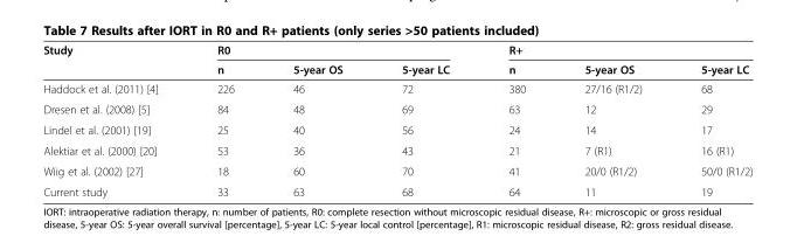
<table><thead><tr><td rowspan="2">Study</td><td colspan="3">R0</td><td colspan="3">R+</td></tr><tr><td>n</td><td>5-year OS</td><td>5-year LC</td><td>n</td><td>5-year OS</td><td>5-year LC</td></tr></thead><tbody><tr><td>Haddock et al. (2011) [4]</td><td>226</td><td>46</td><td>72</td><td>380</td><td>27/16 (R1/2)</td><td>68</td></tr><tr><td>Dresen et al. (2008) [5]</td><td>84</td><td>48</td><td>69</td><td>63</td><td>12</td><td>29</td></tr><tr><td>Lindel et al. (2001) [19]</td><td>25</td><td>40</td><td>56</td><td>24</td><td>14</td><td>17</td></tr><tr><td>Alektiar et al. (2000) [20]</td><td>53</td><td>36</td><td>43</td><td>21</td><td>7 (R1)</td><td>16 (R1)</td></tr><tr><td>Wiig et al. (2002) [27]</td><td>18</td><td>60</td><td>70</td><td>41</td><td>20/0 (R1/2)</td><td>50/0 (R1/2)</td></tr><tr><td>Current study</td><td>33</td><td>63</td><td>68</td><td>64</td><td>11</td><td>19</td></tr></tbody></table>